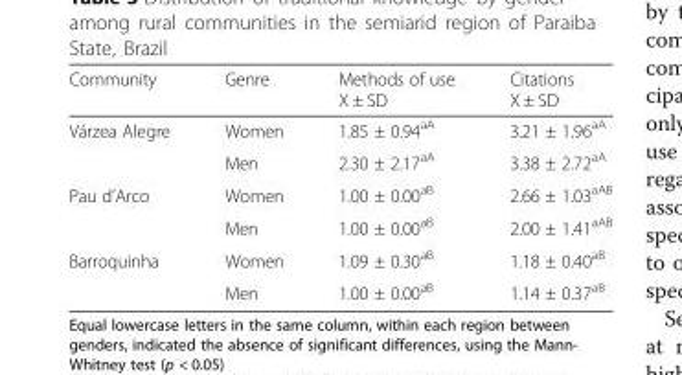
<table><thead><tr><td>Community</td><td>Genre</td><td>Methods of use Χ ± SD</td><td>Citations Χ ± SD</td></tr></thead><tbody><tr><td rowspan="2">Várzea Alegre</td><td>Women</td><td>1.85 ± 0.94<sup>aA</sup></td><td>3.21 ± 1.96<sup>aA</sup></td></tr><tr><td>Men</td><td>2.30 ± 2.17<sup>aA</sup></td><td>3.38 ± 2.72<sup>aA</sup></td></tr><tr><td rowspan="2">Pau d’Arco</td><td>Women</td><td>1.00 ± 0.00<sup>aB</sup></td><td>2.66 ± 1.03<sup>aAB</sup></td></tr><tr><td>Men</td><td>1.00 ± 0.00<sup>aB</sup></td><td>2.00 ± 1.41<sup>aAB</sup></td></tr><tr><td rowspan="2">Barroquinha</td><td>Women</td><td>1.09 ± 0.30<sup>aB</sup></td><td>1.18 ± 0.40<sup>aB</sup></td></tr><tr><td>Men</td><td>1.00 ± 0.00<sup>aB</sup></td><td>1.14 ± 0.37<sup>aB</sup></td></tr></tbody></table>